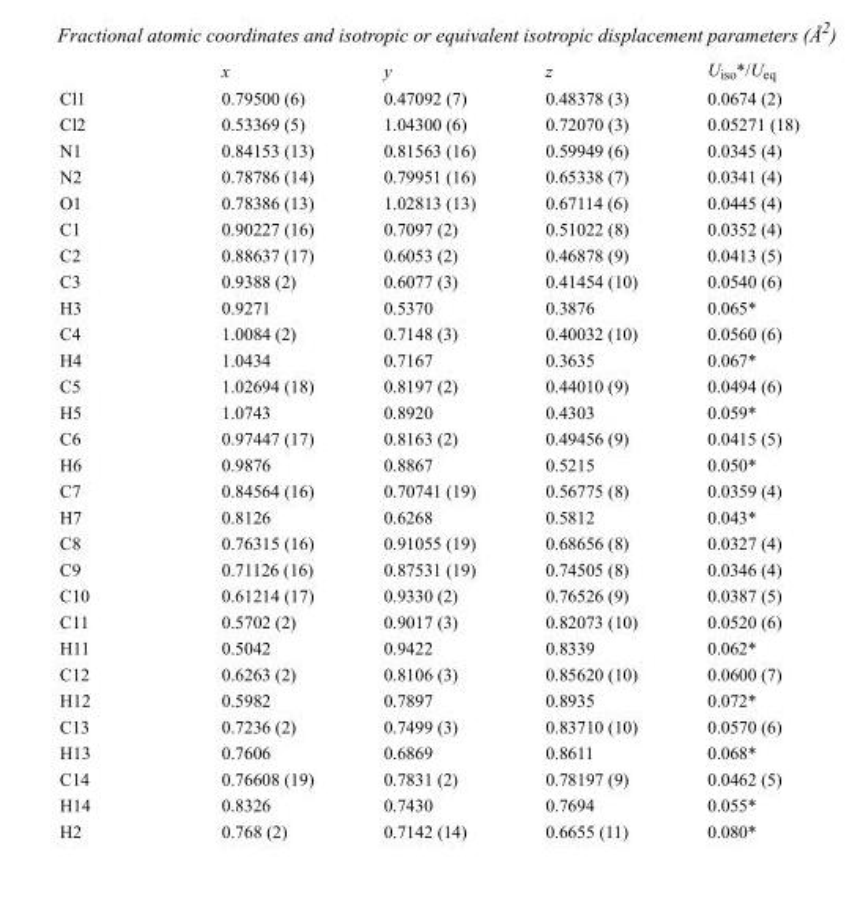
<table><thead><tr><td></td><td>x</td><td>y</td><td>z</td><td>U<sub>iso</sub>*/U<sub>eq</sub></td></tr></thead><tbody><tr><td>Cl1</td><td>0.79500 (6)</td><td>0.47092 (7)</td><td>0.48378 (3)</td><td>0.0674 (2)</td></tr><tr><td>Cl2</td><td>0.53369 (5)</td><td>1.04300 (6)</td><td>0.72070 (3)</td><td>0.05271 (18)</td></tr><tr><td>N1</td><td>0.84153 (13)</td><td>0.81563 (16)</td><td>0.59949 (6)</td><td>0.0345 (4)</td></tr><tr><td>N2</td><td>0.78786 (14)</td><td>0.79951 (16)</td><td>0.65338 (7)</td><td>0.0341 (4)</td></tr><tr><td>O1</td><td>0.78386 (13)</td><td>1.02813 (13)</td><td>0.67114 (6)</td><td>0.0445 (4)</td></tr><tr><td>C1</td><td>0.90227 (16)</td><td>0.7097 (2)</td><td>0.51022 (8)</td><td>0.0352 (4)</td></tr><tr><td>C2</td><td>0.88637 (17)</td><td>0.6053 (2)</td><td>0.46878 (9)</td><td>0.0413 (5)</td></tr><tr><td>C3</td><td>0.9388 (2)</td><td>0.6077 (3)</td><td>0.41454 (10)</td><td>0.0540 (6)</td></tr><tr><td>H3</td><td>0.9271</td><td>0.5370</td><td>0.3876</td><td>0.065*</td></tr><tr><td>C4</td><td>1.0084 (2)</td><td>0.7148 (3)</td><td>0.40032 (10)</td><td>0.0560 (6)</td></tr><tr><td>H4</td><td>1.0434</td><td>0.7167</td><td>0.3635</td><td>0.067*</td></tr><tr><td>C5</td><td>1.02694 (18)</td><td>0.8197 (2)</td><td>0.44010 (9)</td><td>0.0494 (6)</td></tr><tr><td>H5</td><td>1.0743</td><td>0.8920</td><td>0.4303</td><td>0.059*</td></tr><tr><td>C6</td><td>0.97447 (17)</td><td>0.8163 (2)</td><td>0.49456 (9)</td><td>0.0415 (5)</td></tr><tr><td>H6</td><td>0.9876</td><td>0.8867</td><td>0.5215</td><td>0.050*</td></tr><tr><td>C7</td><td>0.84564 (16)</td><td>0.70741 (19)</td><td>0.56775 (8)</td><td>0.0359 (4)</td></tr><tr><td>H7</td><td>0.8126</td><td>0.6268</td><td>0.5812</td><td>0.043*</td></tr><tr><td>C8</td><td>0.76315 (16)</td><td>0.91055 (19)</td><td>0.68656 (8)</td><td>0.0327 (4)</td></tr><tr><td>C9</td><td>0.71126 (16)</td><td>0.87531 (19)</td><td>0.74505 (8)</td><td>0.0346 (4)</td></tr><tr><td>C10</td><td>0.61214 (17)</td><td>0.9330 (2)</td><td>0.76526 (9)</td><td>0.0387 (5)</td></tr><tr><td>C11</td><td>0.5702 (2)</td><td>0.9017 (3)</td><td>0.82073 (10)</td><td>0.0520 (6)</td></tr><tr><td>H11</td><td>0.5042</td><td>0.9422</td><td>0.8339</td><td>0.062*</td></tr><tr><td>C12</td><td>0.6263 (2)</td><td>0.8106 (3)</td><td>0.85620 (10)</td><td>0.0600 (7)</td></tr><tr><td>H12</td><td>0.5982</td><td>0.7897</td><td>0.8935</td><td>0.072*</td></tr><tr><td>C13</td><td>0.7236 (2)</td><td>0.7499 (3)</td><td>0.83710 (10)</td><td>0.0570 (6)</td></tr><tr><td>H13</td><td>0.7606</td><td>0.6869</td><td>0.8611</td><td>0.068*</td></tr><tr><td>C14</td><td>0.76608 (19)</td><td>0.7831 (2)</td><td>0.78197 (9)</td><td>0.0462 (5)</td></tr><tr><td>H14</td><td>0.8326</td><td>0.7430</td><td>0.7694</td><td>0.055*</td></tr><tr><td>H2</td><td>0.768 (2)</td><td>0.7142 (14)</td><td>0.6655 (11)</td><td>0.080*</td></tr></tbody></table>